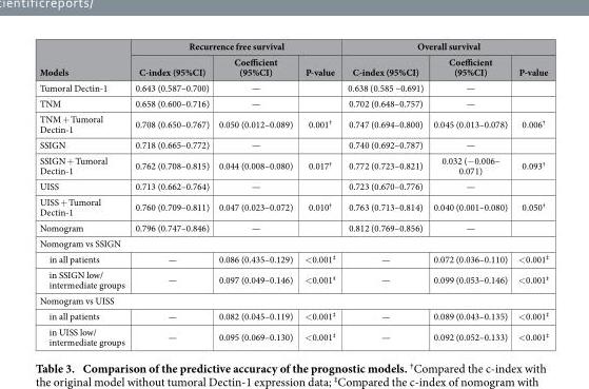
<table><thead><tr><td rowspan="2">Models</td><td colspan="3">Recurrence free survival</td><td colspan="3">Overall survival</td></tr><tr><td>C-index (95%CI)</td><td>Coefficient (95%CI)</td><td>P-value</td><td>C-index (95%CI)</td><td>Coefficient (95%CI)</td><td>P-value</td></tr></thead><tbody><tr><td>Tumoral Dectin-1</td><td>0.643 (0.587–0.700)</td><td>—</td><td></td><td>0.638 (0.585 –0.691)</td><td>—</td><td></td></tr><tr><td>TNM</td><td>0.658 (0.600–0.716)</td><td>—</td><td></td><td>0.702 (0.648–0.757)</td><td>—</td><td></td></tr><tr><td>TNM + Tumoral Dectin-1</td><td>0.708 (0.650–0.767)</td><td>0.050 (0.012–0.089)</td><td>0.001<sup>†</sup></td><td>0.747 (0.694–0.800)</td><td>0.045 (0.013–0.078)</td><td>0.006<sup>†</sup></td></tr><tr><td>SSIGN</td><td>0.718 (0.665–0.772)</td><td>—</td><td></td><td>0.740 (0.692–0.787)</td><td>—</td><td></td></tr><tr><td>SSIGN + Tumoral Dectin-1</td><td>0.762 (0.708–0.815)</td><td>0.044 (0.008–0.080)</td><td>0.017<sup>†</sup></td><td>0.772 (0.723–0.821)</td><td>0.032 (− 0.006– 0.071)</td><td>0.093<sup>†</sup></td></tr><tr><td>UISS</td><td>0.713 (0.662–0.764)</td><td>—</td><td></td><td>0.723 (0.670–0.776)</td><td>—</td><td></td></tr><tr><td>UISS + Tumoral Dectin-1</td><td>0.760 (0.709–0.811)</td><td>0.047 (0.023–0.072)</td><td>0.010<sup>†</sup></td><td>0.763 (0.713–0.814)</td><td>0.040 (0.001–0.080)</td><td>0.050<sup>†</sup></td></tr><tr><td>Nomogram</td><td>0.796 (0.747–0.846)</td><td>—</td><td></td><td>0.812 (0.769–0.856)</td><td>—</td><td></td></tr><tr><td colspan="7">Nomogram vs SSIGN</td></tr><tr><td>in all patients</td><td>—</td><td>0.086 (0.435–0.129)</td><td>&lt; 0.001<sup>‡</sup></td><td>—</td><td>0.072 (0.036–0.110)</td><td>&lt; 0.001<sup>‡</sup></td></tr><tr><td>in SSIGN low/ intermediate groups</td><td>—</td><td>0.097 (0.049–0.146)</td><td>&lt; 0.001<sup>‡</sup></td><td>—</td><td>0.099 (0.053–0.146)</td><td>&lt; 0.001<sup>‡</sup></td></tr><tr><td colspan="7">Nomogram vs UISS</td></tr><tr><td>in all patients</td><td>—</td><td>0.082 (0.045–0.119)</td><td>&lt; 0.001<sup>‡</sup></td><td>—</td><td>0.089 (0.043–0.135)</td><td>&lt; 0.001<sup>‡</sup></td></tr><tr><td>in UISS low/ intermediate groups</td><td>—</td><td>0.095 (0.069–0.130)</td><td>&lt; 0.001<sup>‡</sup></td><td>—</td><td>0.092 (0.052–0.133)</td><td>&lt; 0.001<sup>‡</sup></td></tr></tbody></table>